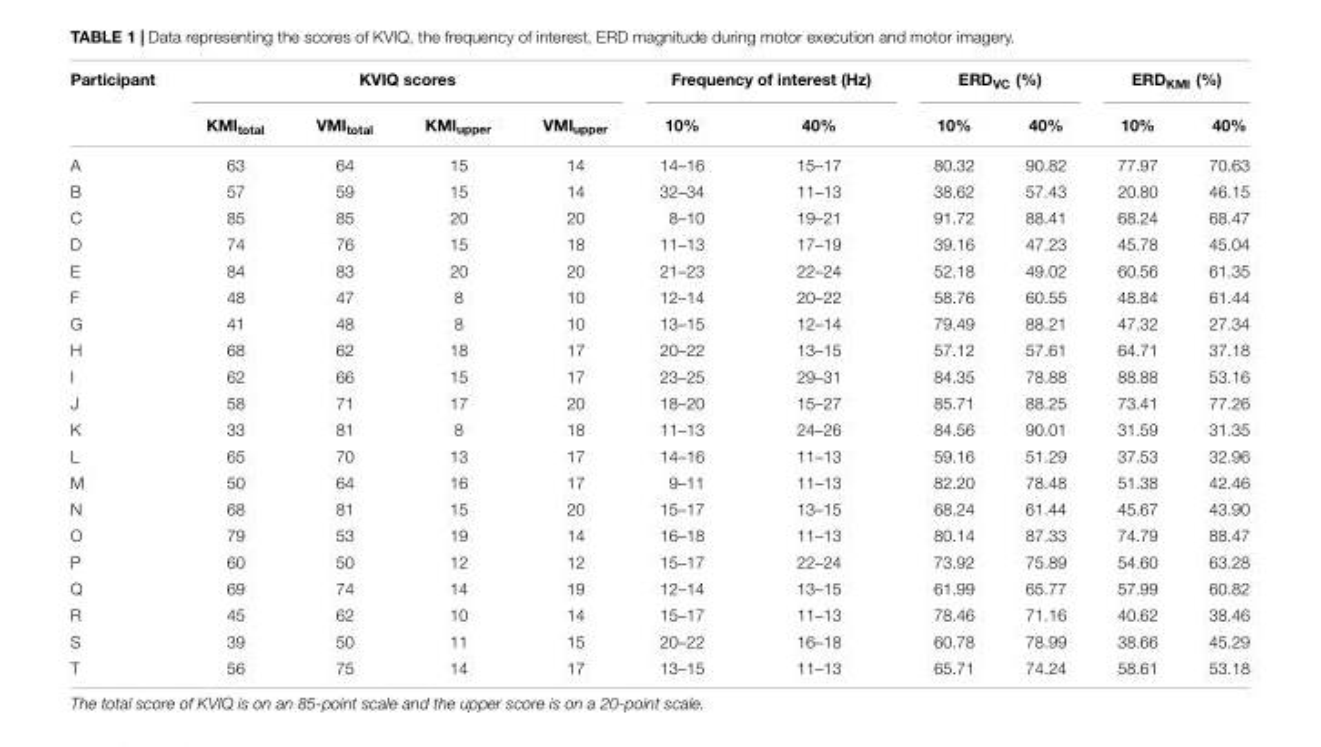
<table><thead><tr><td rowspan="2">Participant</td><td colspan="4">KVIQ scores</td><td colspan="2">Frequency of interest (Hz)</td><td colspan="2">ERD<sub>VC</sub> (%)</td><td colspan="2">ERD<sub>KMI</sub> (%)</td></tr><tr><td>KMI<sub>total</sub></td><td>VMI<sub>total</sub></td><td>KMI<sub>upper</sub></td><td>VMI<sub>upper</sub></td><td>10%</td><td>40%</td><td>10%</td><td>40%</td><td>10%</td><td>40%</td></tr></thead><tbody><tr><td>A</td><td>63</td><td>64</td><td>15</td><td>14</td><td>14–16</td><td>15–17</td><td>80.32</td><td>90.82</td><td>77.97</td><td>70.63</td></tr><tr><td>B</td><td>57</td><td>59</td><td>15</td><td>14</td><td>32–34</td><td>11–13</td><td>38.62</td><td>57.43</td><td>20.80</td><td>46.15</td></tr><tr><td>C</td><td>85</td><td>85</td><td>20</td><td>20</td><td>8–10</td><td>19–21</td><td>91.72</td><td>88.41</td><td>68.24</td><td>68.47</td></tr><tr><td>D</td><td>74</td><td>76</td><td>15</td><td>18</td><td>11–13</td><td>17–19</td><td>39.16</td><td>47.23</td><td>45.78</td><td>45.04</td></tr><tr><td>E</td><td>84</td><td>83</td><td>20</td><td>20</td><td>21–23</td><td>22–24</td><td>52.18</td><td>49.02</td><td>60.56</td><td>61.35</td></tr><tr><td>F</td><td>48</td><td>47</td><td>8</td><td>10</td><td>12–14</td><td>20–22</td><td>58.76</td><td>60.55</td><td>48.84</td><td>61.44</td></tr><tr><td>G</td><td>41</td><td>48</td><td>8</td><td>10</td><td>13–15</td><td>12–14</td><td>79.49</td><td>88.21</td><td>47.32</td><td>27.34</td></tr><tr><td>H</td><td>68</td><td>62</td><td>18</td><td>17</td><td>20–22</td><td>13–15</td><td>57.12</td><td>57.61</td><td>64.71</td><td>37.18</td></tr><tr><td>I</td><td>62</td><td>66</td><td>15</td><td>17</td><td>23–25</td><td>29–31</td><td>84.35</td><td>78.88</td><td>88.88</td><td>53.16</td></tr><tr><td>J</td><td>58</td><td>71</td><td>17</td><td>20</td><td>18–20</td><td>15–27</td><td>85.71</td><td>88.25</td><td>73.41</td><td>77.26</td></tr><tr><td>K</td><td>33</td><td>81</td><td>8</td><td>18</td><td>11–13</td><td>24–26</td><td>84.56</td><td>90.01</td><td>31.59</td><td>31.35</td></tr><tr><td>L</td><td>65</td><td>70</td><td>13</td><td>17</td><td>14–16</td><td>11–13</td><td>59.16</td><td>51.29</td><td>37.53</td><td>32.96</td></tr><tr><td>M</td><td>50</td><td>64</td><td>16</td><td>17</td><td>9–11</td><td>11–13</td><td>82.20</td><td>78.48</td><td>51.38</td><td>42.46</td></tr><tr><td>N</td><td>68</td><td>81</td><td>15</td><td>20</td><td>15–17</td><td>13–15</td><td>68.24</td><td>61.44</td><td>45.67</td><td>43.90</td></tr><tr><td>O</td><td>79</td><td>53</td><td>19</td><td>14</td><td>16–18</td><td>11–13</td><td>80.14</td><td>87.33</td><td>74.79</td><td>88.47</td></tr><tr><td>P</td><td>60</td><td>50</td><td>12</td><td>12</td><td>15–17</td><td>22–24</td><td>73.92</td><td>75.89</td><td>54.60</td><td>63.28</td></tr><tr><td>Q</td><td>69</td><td>74</td><td>14</td><td>19</td><td>12–14</td><td>13–15</td><td>61.99</td><td>65.77</td><td>57.99</td><td>60.82</td></tr><tr><td>R</td><td>45</td><td>62</td><td>10</td><td>14</td><td>15–17</td><td>11–13</td><td>78.46</td><td>71.16</td><td>40.62</td><td>38.46</td></tr><tr><td>S</td><td>39</td><td>50</td><td>11</td><td>15</td><td>20–22</td><td>16–18</td><td>60.78</td><td>78.99</td><td>38.66</td><td>45.29</td></tr><tr><td>T</td><td>56</td><td>75</td><td>14</td><td>17</td><td>13–15</td><td>11–13</td><td>65.71</td><td>74.24</td><td>58.61</td><td>53.18</td></tr></tbody></table>